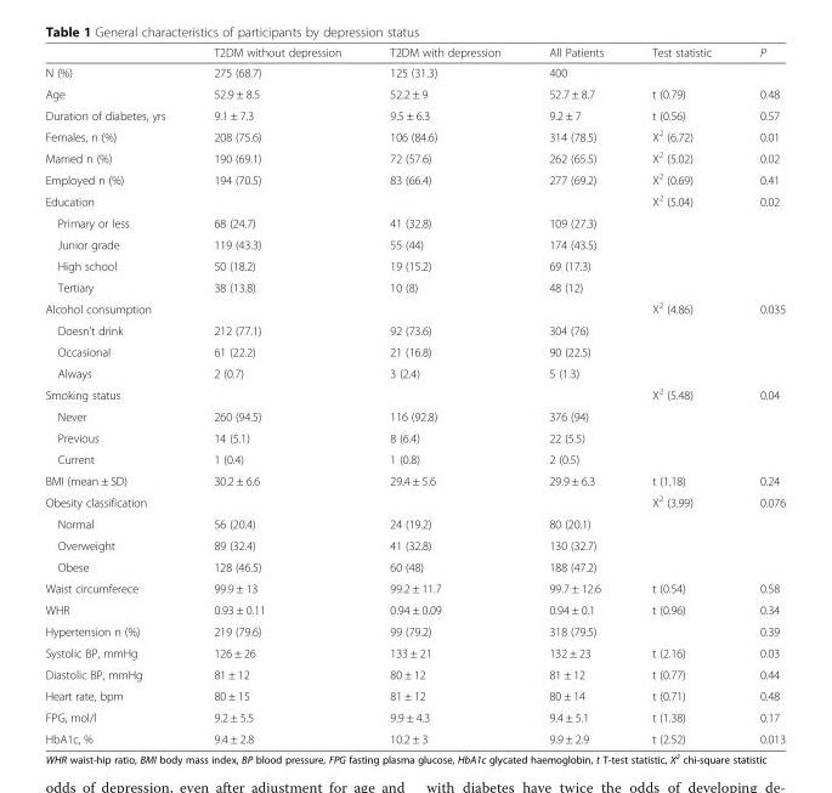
<table><thead><tr><td></td><td>T2DM without depression</td><td>T2DM with depression</td><td>All Patients</td><td>Test statistic</td><td>P</td></tr></thead><tbody><tr><td>N (%)</td><td>275 (68.7)</td><td>125 (31.3)</td><td>400</td><td></td><td></td></tr><tr><td>Age</td><td>52.9 ± 8.5</td><td>52.2 ± 9</td><td>52.7 ± 8.7</td><td>t (0.79)</td><td>0.48</td></tr><tr><td>Duration of diabetes, yrs</td><td>9.1 ± 7.3</td><td>9.5 ± 6.3</td><td>9.2 ± 7</td><td>t (0.56)</td><td>0.57</td></tr><tr><td>Females, n (%)</td><td>208 (75.6)</td><td>106 (84.6)</td><td>314 (78.5)</td><td>Χ<sup>2</sup> (6.72)</td><td>0.01</td></tr><tr><td>Married n (%)</td><td>190 (69.1)</td><td>72 (57.6)</td><td>262 (65.5)</td><td>Χ<sup>2</sup> (5.02)</td><td>0.02</td></tr><tr><td>Employed n (%)</td><td>194 (70.5)</td><td>83 (66.4)</td><td>277 (69.2)</td><td>Χ<sup>2</sup> (0.69)</td><td>0.41</td></tr><tr><td>Education</td><td></td><td></td><td></td><td>Χ<sup>2</sup> (5.04)</td><td>0.02</td></tr><tr><td>Primary or less</td><td>68 (24.7)</td><td>41 (32.8)</td><td>109 (27.3)</td><td></td><td></td></tr><tr><td>Junior grade</td><td>119 (43.3)</td><td>55 (44)</td><td>174 (43.5)</td><td></td><td></td></tr><tr><td>High school</td><td>50 (18.2)</td><td>19 (15.2)</td><td>69 (17.3)</td><td></td><td></td></tr><tr><td>Tertiary</td><td>38 (13.8)</td><td>10 (8)</td><td>48 (12)</td><td></td><td></td></tr><tr><td>Alcohol consumption</td><td></td><td></td><td></td><td>Χ<sup>2</sup> (4.86)</td><td>0.035</td></tr><tr><td>Doesn’t drink</td><td>212 (77.1)</td><td>92 (73.6)</td><td>304 (76)</td><td></td><td></td></tr><tr><td>Occasional</td><td>61 (22.2)</td><td>21 (16.8)</td><td>90 (22.5)</td><td></td><td></td></tr><tr><td>Always</td><td>2 (0.7)</td><td>3 (2.4)</td><td>5 (1.3)</td><td></td><td></td></tr><tr><td>Smoking status</td><td></td><td></td><td></td><td>Χ<sup>2</sup> (5.48)</td><td>0.04</td></tr><tr><td>Never</td><td>260 (94.5)</td><td>116 (92.8)</td><td>376 (94)</td><td></td><td></td></tr><tr><td>Previous</td><td>14 (5.1)</td><td>8 (6.4)</td><td>22 (5.5)</td><td></td><td></td></tr><tr><td>Current</td><td>1 (0.4)</td><td>1 (0.8)</td><td>2 (0.5)</td><td></td><td></td></tr><tr><td>BMI (mean ± SD)</td><td>30.2 ± 6.6</td><td>29.4 ± 5.6</td><td>29.9 ± 6.3</td><td>t (1.18)</td><td>0.24</td></tr><tr><td>Obesity classification</td><td></td><td></td><td></td><td>Χ<sup>2</sup> (3.99)</td><td>0.076</td></tr><tr><td>Normal</td><td>56 (20.4)</td><td>24 (19.2)</td><td>80 (20.1)</td><td></td><td></td></tr><tr><td>Overweight</td><td>89 (32.4)</td><td>41 (32.8)</td><td>130 (32.7)</td><td></td><td></td></tr><tr><td>Obese</td><td>128 (46.5)</td><td>60 (48)</td><td>188 (47.2)</td><td></td><td></td></tr><tr><td>Waist circumferece</td><td>99.9 ± 13</td><td>99.2 ± 11.7</td><td>99.7 ± 12.6</td><td>t (0.54)</td><td>0.58</td></tr><tr><td>WHR</td><td>0.93 ± 0.11</td><td>0.94 ± 0.09</td><td>0.94 ± 0.1</td><td>t (0.96)</td><td>0.34</td></tr><tr><td>Hypertension n (%)</td><td>219 (79.6)</td><td>99 (79.2)</td><td>318 (79.5)</td><td></td><td>0.39</td></tr><tr><td>Systolic BP, mmHg</td><td>126 ± 26</td><td>133 ± 21</td><td>132 ± 23</td><td>t (2.16)</td><td>0.03</td></tr><tr><td>Diastolic BP, mmHg</td><td>81 ± 12</td><td>80 ± 12</td><td>81 ± 12</td><td>t (0.77)</td><td>0.44</td></tr><tr><td>Heart rate, bpm</td><td>80 ± 15</td><td>81 ± 12</td><td>80 ± 14</td><td>t (0.71)</td><td>0.48</td></tr><tr><td>FPG, mol/l</td><td>9.2 ± 5.5</td><td>9.9 ± 4.3</td><td>9.4 ± 5.1</td><td>t (1.38)</td><td>0.17</td></tr><tr><td>HbA1c, %</td><td>9.4 ± 2.8</td><td>10.2 ± 3</td><td>9.9 ± 2.9</td><td>t (2.52)</td><td>0.013</td></tr></tbody></table>